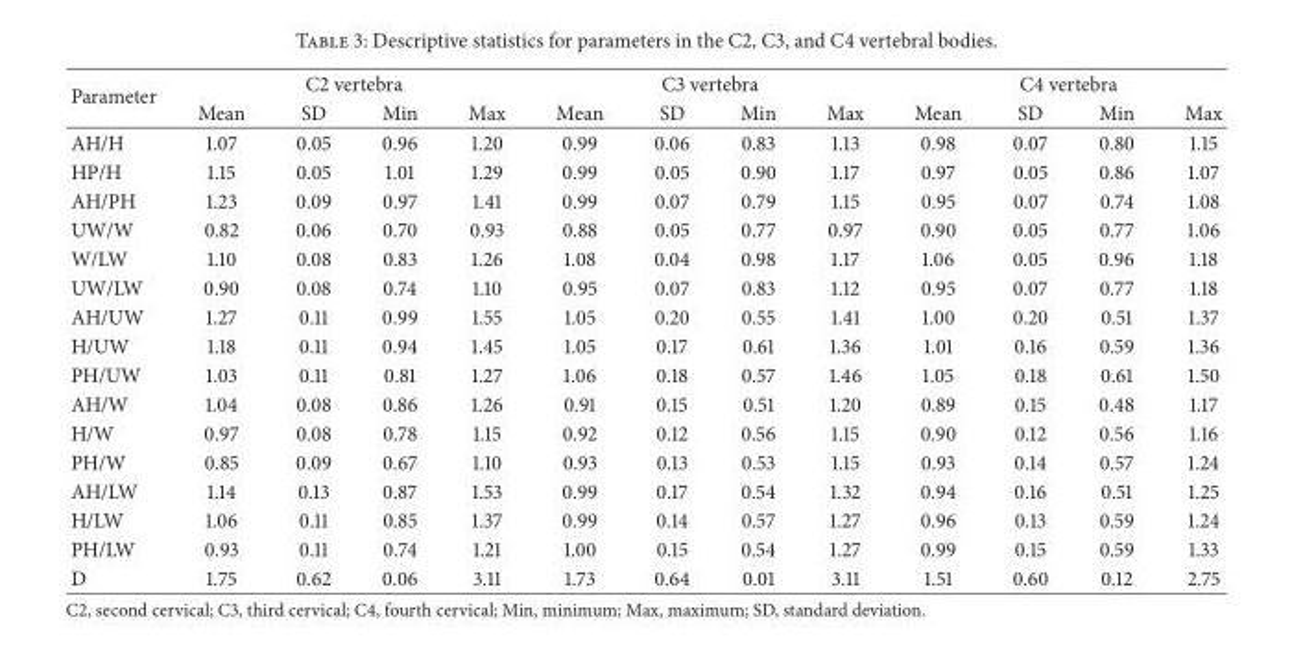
<table><thead><tr><td rowspan="2">Parameter</td><td colspan="4">C2 vertebra</td><td colspan="4">C3 vertebra</td><td colspan="4">C4 vertebra</td></tr><tr><td>Mean</td><td>SD</td><td>Min</td><td>Max</td><td>Mean</td><td>SD</td><td>Min</td><td>Max</td><td>Mean</td><td>SD</td><td>Min</td><td>Max</td></tr></thead><tbody><tr><td>AH/H</td><td>1.07</td><td>0.05</td><td>0.96</td><td>1.20</td><td>0.99</td><td>0.06</td><td>0.83</td><td>1.13</td><td>0.98</td><td>0.07</td><td>0.80</td><td>1.15</td></tr><tr><td>HP/H</td><td>1.15</td><td>0.05</td><td>1.01</td><td>1.29</td><td>0.99</td><td>0.05</td><td>0.90</td><td>1.17</td><td>0.97</td><td>0.05</td><td>0.86</td><td>1.07</td></tr><tr><td>AH/PH</td><td>1.23</td><td>0.09</td><td>0.97</td><td>1.41</td><td>0.99</td><td>0.07</td><td>0.79</td><td>1.15</td><td>0.95</td><td>0.07</td><td>0.74</td><td>1.08</td></tr><tr><td>UW/W</td><td>0.82</td><td>0.06</td><td>0.70</td><td>0.93</td><td>0.88</td><td>0.05</td><td>0.77</td><td>0.97</td><td>0.90</td><td>0.05</td><td>0.77</td><td>1.06</td></tr><tr><td>W/LW</td><td>1.10</td><td>0.08</td><td>0.83</td><td>1.26</td><td>1.08</td><td>0.04</td><td>0.98</td><td>1.17</td><td>1.06</td><td>0.05</td><td>0.96</td><td>1.18</td></tr><tr><td>UW/LW</td><td>0.90</td><td>0.08</td><td>0.74</td><td>1.10</td><td>0.95</td><td>0.07</td><td>0.83</td><td>1.12</td><td>0.95</td><td>0.07</td><td>0.77</td><td>1.18</td></tr><tr><td>AH/UW</td><td>1.27</td><td>0.11</td><td>0.99</td><td>1.55</td><td>1.05</td><td>0.20</td><td>0.55</td><td>1.41</td><td>1.00</td><td>0.20</td><td>0.51</td><td>1.37</td></tr><tr><td>H/UW</td><td>1.18</td><td>0.11</td><td>0.94</td><td>1.45</td><td>1.05</td><td>0.17</td><td>0.61</td><td>1.36</td><td>1.01</td><td>0.16</td><td>0.59</td><td>1.36</td></tr><tr><td>PH/UW</td><td>1.03</td><td>0.11</td><td>0.81</td><td>1.27</td><td>1.06</td><td>0.18</td><td>0.57</td><td>1.46</td><td>1.05</td><td>0.18</td><td>0.61</td><td>1.50</td></tr><tr><td>AH/W</td><td>1.04</td><td>0.08</td><td>0.86</td><td>1.26</td><td>0.91</td><td>0.15</td><td>0.51</td><td>1.20</td><td>0.89</td><td>0.15</td><td>0.48</td><td>1.17</td></tr><tr><td>H/W</td><td>0.97</td><td>0.08</td><td>0.78</td><td>1.15</td><td>0.92</td><td>0.12</td><td>0.56</td><td>1.15</td><td>0.90</td><td>0.12</td><td>0.56</td><td>1.16</td></tr><tr><td>PH/W</td><td>0.85</td><td>0.09</td><td>0.67</td><td>1.10</td><td>0.93</td><td>0.13</td><td>0.53</td><td>1.15</td><td>0.93</td><td>0.14</td><td>0.57</td><td>1.24</td></tr><tr><td>AH/LW</td><td>1.14</td><td>0.13</td><td>0.87</td><td>1.53</td><td>0.99</td><td>0.17</td><td>0.54</td><td>1.32</td><td>0.94</td><td>0.16</td><td>0.51</td><td>1.25</td></tr><tr><td>H/LW</td><td>1.06</td><td>0.11</td><td>0.85</td><td>1.37</td><td>0.99</td><td>0.14</td><td>0.57</td><td>1.27</td><td>0.96</td><td>0.13</td><td>0.59</td><td>1.24</td></tr><tr><td>PH/LW</td><td>0.93</td><td>0.11</td><td>0.74</td><td>1.21</td><td>1.00</td><td>0.15</td><td>0.54</td><td>1.27</td><td>0.99</td><td>0.15</td><td>0.59</td><td>1.33</td></tr><tr><td>D</td><td>1.75</td><td>0.62</td><td>0.06</td><td>3.11</td><td>1.73</td><td>0.64</td><td>0.01</td><td>3.11</td><td>1.51</td><td>0.60</td><td>0.12</td><td>2.75</td></tr></tbody></table>